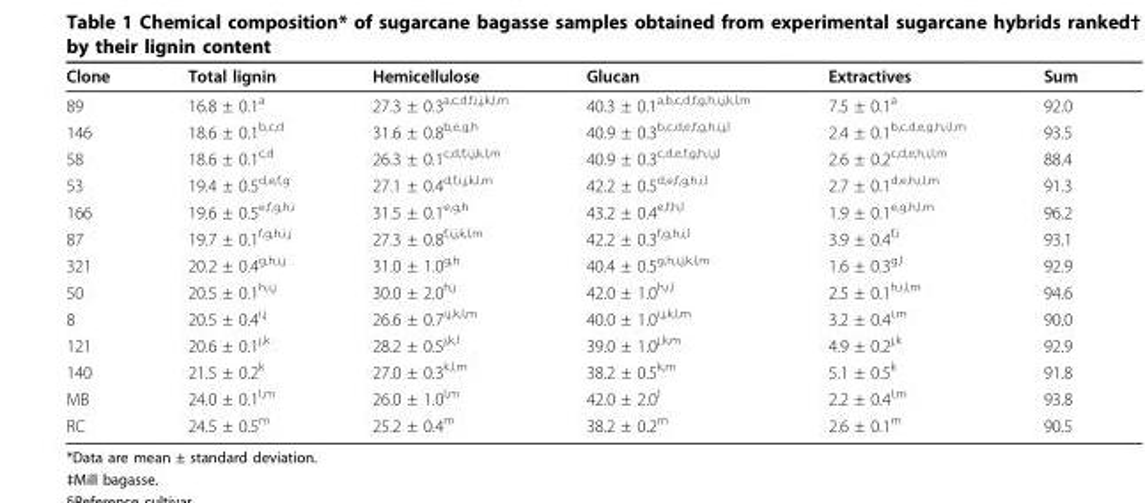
<table><thead><tr><td>Clone</td><td>Total lignin</td><td>Hemicellulose</td><td>Glucan</td><td>Extractives</td><td>Sum</td></tr></thead><tbody><tr><td>89</td><td>16.8 ± 0.1<sup>a</sup></td><td>27.3 ± 0.3<sup>a,c,d,f,i,j,k,l,m</sup></td><td>40.3 ± 0.1<sup>a,b,c,d,f,g,h,i,j,k,l,m</sup></td><td>7.5 ± 0.1<sup>a</sup></td><td>92.0</td></tr><tr><td>146</td><td>18.6 ± 0.1<sup>b,c,d</sup></td><td>31.6 ± 0.8<sup>b,e,g,h</sup></td><td>40.9 ± 0.3<sup>b,c,d,e,f,g,h,i,j,l</sup></td><td>2.4 ± 0.1<sup>b,c,d,e,g,h,i,l,m</sup></td><td>93.5</td></tr><tr><td>58</td><td>18.6 ± 0.1<sup>c,d</sup></td><td>26.3 ± 0.1<sup>c,d,f,i,j,k,l,m</sup></td><td>40.9 ± 0.3<sup>c,d,e,f,g,h,i,j,l</sup></td><td>2.6 ± 0.2<sup>c,d,e,h,i,l,m</sup></td><td>88.4</td></tr><tr><td>53</td><td>19.4 ± 0.5<sup>d,e,f,g</sup></td><td>27.1 ± 0.4<sup>d,f,i,j,k,l,m</sup></td><td>42.2 ± 0.5<sup>d,e,f,g,h,i,l</sup></td><td>2.7 ± 0.1<sup>d,e,h,i,l,m</sup></td><td>91.3</td></tr><tr><td>166</td><td>19.6 ± 0.5<sup>e,f,g,h,i</sup></td><td>31.5 ± 0.1<sup>e,g,h</sup></td><td>43.2 ± 0.4<sup>e,f,h,l</sup></td><td>1.9 ± 0.1<sup>e,g,h,l,m</sup></td><td>96.2</td></tr><tr><td>87</td><td>19.7 ± 0.1<sup>f,g,h,i,j</sup></td><td>27.3 ± 0.8<sup>f,i,j,k,l,m</sup></td><td>42.2 ± 0.3<sup>f,g,h,i,l</sup></td><td>3.9 ± 0.4<sup>f,i</sup></td><td>93.1</td></tr><tr><td>321</td><td>20.2 ± 0.4<sup>g,h,i,j</sup></td><td>31.0 ± 1.0<sup>g,h</sup></td><td>40.4 ± 0.5<sup>g,h,i,j,k,l,m</sup></td><td>1.6 ± 0.3<sup>g,l</sup></td><td>92.9</td></tr><tr><td>50</td><td>20.5 ± 0.1<sup>h,i,j</sup></td><td>30.0 ± 2.0<sup>h,j</sup></td><td>42.0 ± 1.0<sup>h,i,l</sup></td><td>2.5 ± 0.1<sup>h,i,l,m</sup></td><td>94.6</td></tr><tr><td>8</td><td>20.5 ± 0.4<sup>i,j</sup></td><td>26.6 ± 0.7<sup>i,j,k,l,m</sup></td><td>40.0 ± 1.0<sup>i,j,k,l,m</sup></td><td>3.2 ± 0.4<sup>i,m</sup></td><td>90.0</td></tr><tr><td>121</td><td>20.6 ± 0.1<sup>j,k</sup></td><td>28.2 ± 0.5<sup>j,k,l</sup></td><td>39.0 ± 1.0<sup>j,k,m</sup></td><td>4.9 ± 0.2<sup>j,k</sup></td><td>92.9</td></tr><tr><td>140</td><td>21.5 ± 0.2<sup>k</sup></td><td>27.0 ± 0.3<sup>k,l,m</sup></td><td>38.2 ± 0.5<sup>k,m</sup></td><td>5.1 ± 0.5<sup>k</sup></td><td>91.8</td></tr><tr><td>MB</td><td>24.0 ± 0.1<sup>l,m</sup></td><td>26.0 ± 1.0<sup>l,m</sup></td><td>42.0 ± 2.0<sup>l</sup></td><td>2.2 ± 0.4<sup>l,m</sup></td><td>93.8</td></tr><tr><td>RC</td><td>24.5 ± 0.5<sup>m</sup></td><td>25.2 ± 0.4<sup>m</sup></td><td>38.2 ± 0.2<sup>m</sup></td><td>2.6 ± 0.1<sup>m</sup></td><td>90.5</td></tr></tbody></table>